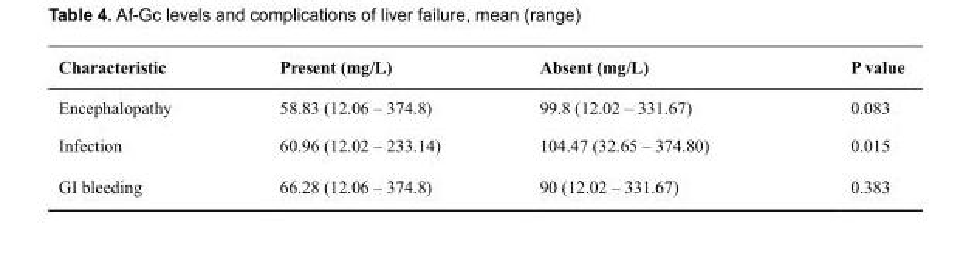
<table><thead><tr><td>Characteristic</td><td>Present (mg/L)</td><td>Absent (mg/L)</td><td>P value</td></tr></thead><tbody><tr><td>Encephalopathy</td><td>58.83 (12.06 – 374.8)</td><td>99.8 (12.02 – 331.67)</td><td>0.083</td></tr><tr><td>Infection</td><td>60.96 (12.02 – 233.14)</td><td>104.47 (32.65 – 374.80)</td><td>0.015</td></tr><tr><td>GI bleeding</td><td>66.28 (12.06 – 374.8)</td><td>90 (12.02 – 331.67)</td><td>0.383</td></tr></tbody></table>